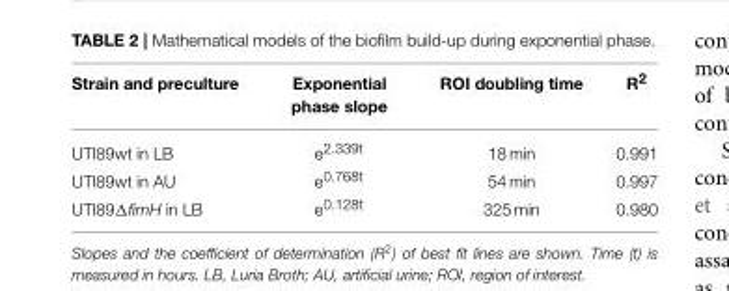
<table><thead><tr><td>Strain and preculture</td><td>Exponential phase slope</td><td>ROI doubling time</td><td>R<sup>2</sup></td></tr></thead><tbody><tr><td>UTI89wt in LB</td><td>e<sup>2.339t</sup></td><td>18 min</td><td>0.991</td></tr><tr><td>UTI89wt in AU</td><td>e<sup>0.768t</sup></td><td>54 min</td><td>0.997</td></tr><tr><td>UTI89ΔfimH in LB</td><td>e<sup>0.128t</sup></td><td>325 min</td><td>0.980</td></tr></tbody></table>